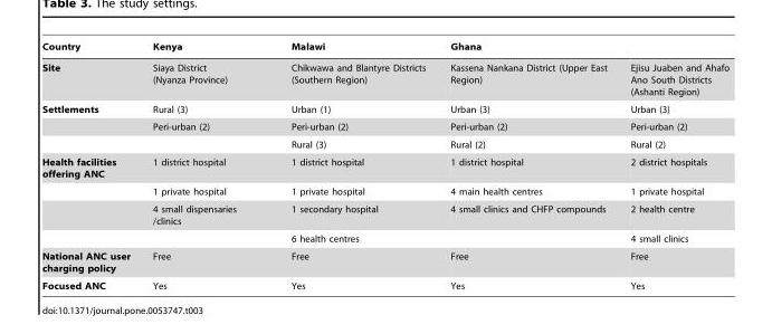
<table><thead><tr><td>Country</td><td>Kenya</td><td>Malawi</td><td>Ghana</td><td></td></tr></thead><tbody><tr><td>Site</td><td>Siaya District (Nyanza Province)</td><td>Chikwawa and Blantyre Districts (Southern Region)</td><td>Kassena Nankana District (Upper East Region)</td><td>Ejisu Juaben and Ahafo Ano South Districts (Ashanti Region)</td></tr><tr><td rowspan="3">Settlements</td><td>Rural (3)</td><td>Urban (1)</td><td>Urban (3)</td><td>Urban (3)</td></tr><tr><td>Peri-urban (2)</td><td>Peri-urban (2)</td><td>Peri-urban (2)</td><td>Peri-urban (2)</td></tr><tr><td></td><td>Rural (3)</td><td>Rural (2)</td><td>Rural (2)</td></tr><tr><td rowspan="4">Health facilities offering ANC</td><td>1 district hospital</td><td>1 district hospital</td><td>1 district hospital</td><td>2 district hospitals</td></tr><tr><td>1 private hospital</td><td>1 private hospital</td><td>4 main health centres</td><td>1 private hospital</td></tr><tr><td>4 small dispensaries /clinics</td><td>1 secondary hospital</td><td>4 small clinics and CHFP compounds</td><td>2 health centre</td></tr><tr><td></td><td>6 health centres</td><td></td><td>4 small clinics</td></tr><tr><td>National ANC user charging policy</td><td>Free</td><td>Free</td><td>Free</td><td>Free</td></tr><tr><td>Focused ANC</td><td>Yes</td><td>Yes</td><td>Yes</td><td>Yes</td></tr></tbody></table>